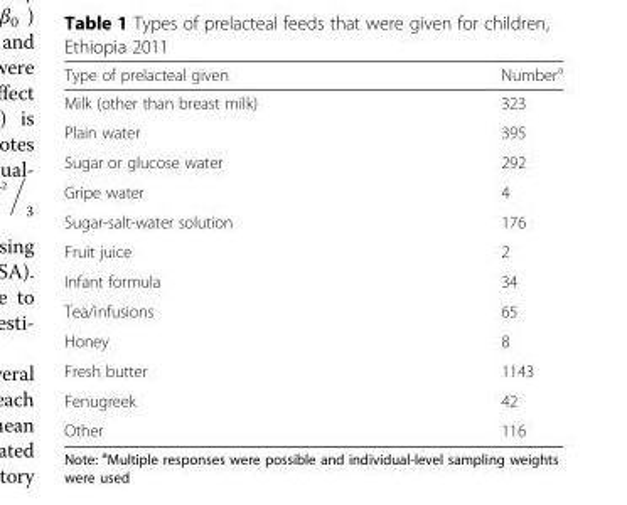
<table><thead><tr><td>Type of prelacteal given</td><td>Number<sup>a</sup></td></tr></thead><tbody><tr><td>Milk (other than breast milk)</td><td>323</td></tr><tr><td>Plain water</td><td>395</td></tr><tr><td>Sugar or glucose water</td><td>292</td></tr><tr><td>Gripe water</td><td>4</td></tr><tr><td>Sugar-salt-water solution</td><td>176</td></tr><tr><td>Fruit juice</td><td>2</td></tr><tr><td>Infant formula</td><td>34</td></tr><tr><td>Tea/infusions</td><td>65</td></tr><tr><td>Honey</td><td>8</td></tr><tr><td>Fresh butter</td><td>1143</td></tr><tr><td>Fenugreek</td><td>42</td></tr><tr><td>Other</td><td>116</td></tr></tbody></table>